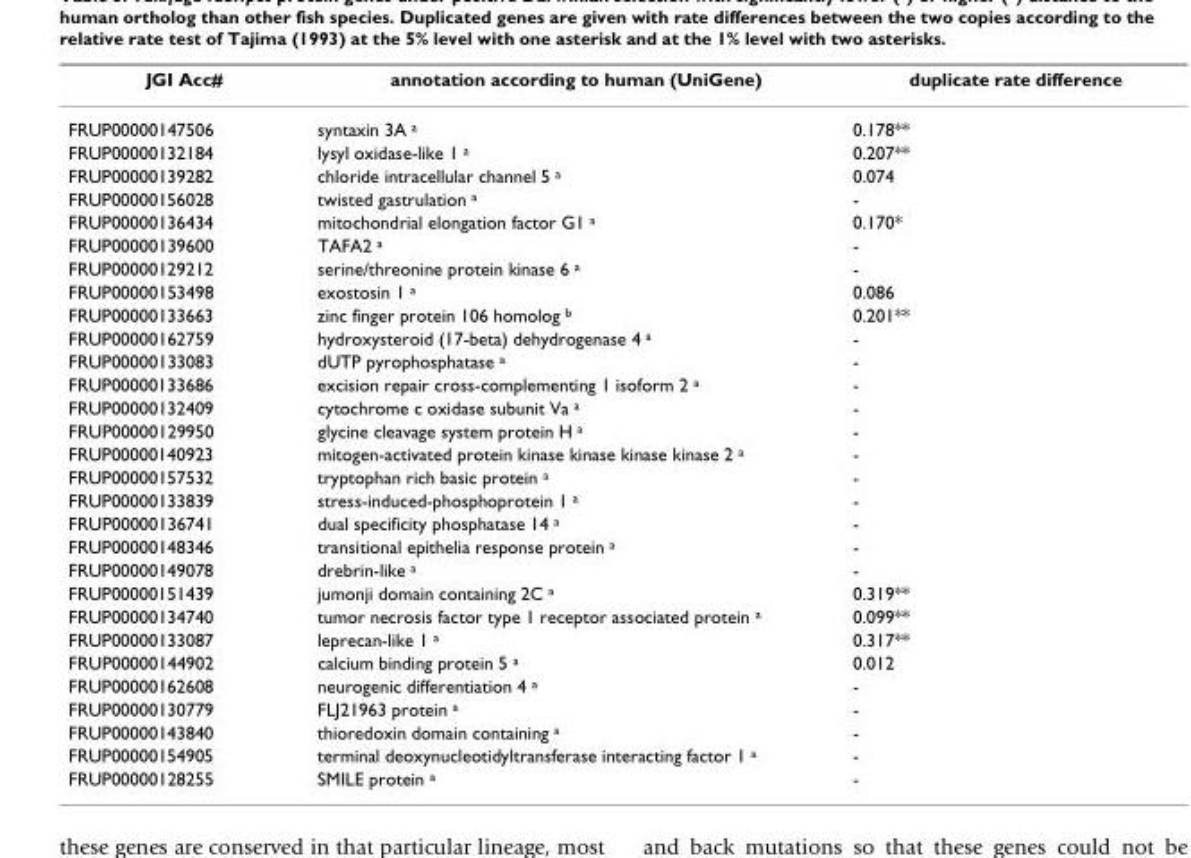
<table><thead><tr><td>JGI Acc#</td><td>annotation according to human (UniGene)</td><td>duplicate rate difference</td></tr></thead><tbody><tr><td>FRUP00000147506</td><td>syntaxin 3A a</td><td>0.178**</td></tr><tr><td>FRUP00000132184</td><td>lysyl oxidase-like 1 a</td><td>0.207**</td></tr><tr><td>FRUP00000139282</td><td>chloride intracellular channel 5 a</td><td>0.074</td></tr><tr><td>FRUP00000156028</td><td>twisted gastrulation a</td><td>-</td></tr><tr><td>FRUP00000136434</td><td>mitochondrial elongation factor G1 a</td><td>0.170*</td></tr><tr><td>FRUP00000139600</td><td>TAFA2 a</td><td>-</td></tr><tr><td>FRUP00000129212</td><td>serine/threonine protein kinase 6 a</td><td>-</td></tr><tr><td>FRUP00000153498</td><td>exostosin 1 a</td><td>0.086</td></tr><tr><td>FRUP00000133663</td><td>zinc finger protein 106 homolog b</td><td>0.201**</td></tr><tr><td>FRUP00000162759</td><td>hydroxysteroid (17-beta) dehydrogenase 4 a</td><td>-</td></tr><tr><td>FRUP00000133083</td><td>dUTP pyrophosphatase a</td><td>-</td></tr><tr><td>FRUP00000133686</td><td>excision repair cross-complementing 1 isoform 2 a</td><td>-</td></tr><tr><td>FRUP00000132409</td><td>cytochrome c oxidase subunit Va a</td><td>-</td></tr><tr><td>FRUP00000129950</td><td>glycine cleavage system protein H a</td><td>-</td></tr><tr><td>FRUP00000140923</td><td>mitogen-activated protein kinase kinase kinase kinase 2 a</td><td>-</td></tr><tr><td>FRUP00000157532</td><td>tryptophan rich basic protein a</td><td>-</td></tr><tr><td>FRUP00000133839</td><td>stress-induced-phosphoprotein 1 a</td><td>-</td></tr><tr><td>FRUP00000136741</td><td>dual specificity phosphatase 14 a</td><td>-</td></tr><tr><td>FRUP00000148346</td><td>transitional epithelia response protein a</td><td>-</td></tr><tr><td>FRUP00000149078</td><td>drebrin-like a</td><td>-</td></tr><tr><td>FRUP00000151439</td><td>jumonji domain containing 2C a</td><td>0.319**</td></tr><tr><td>FRUP00000134740</td><td>tumor necrosis factor type 1 receptor associated protein a</td><td>0.099**</td></tr><tr><td>FRUP00000133087</td><td>leprecan-like 1 a</td><td>0.317**</td></tr><tr><td>FRUP00000144902</td><td>calcium binding protein 5 a</td><td>0.012</td></tr><tr><td>FRUP00000162608</td><td>neurogenic differentiation 4 a</td><td>-</td></tr><tr><td>FRUP00000130779</td><td>FLJ21963 protein a</td><td>-</td></tr><tr><td>FRUP00000143840</td><td>thioredoxin domain containing a</td><td>-</td></tr><tr><td>FRUP00000154905</td><td>terminal deoxynucleotidyltransferase interacting factor 1 a</td><td>-</td></tr><tr><td>FRUP00000128255</td><td>SMILE protein a</td><td>-</td></tr></tbody></table>